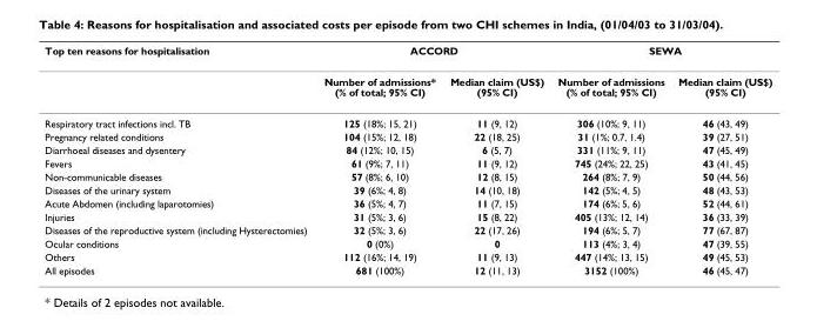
<table><thead><tr><td rowspan="2">Top ten reasons for hospitalisation</td><td colspan="2">ACCORD</td><td colspan="2">SEWA</td></tr><tr><td>Number of admissions* (% of total; 95% CI)</td><td>Median claim (US$) (95% CI)</td><td>Number of admissions (% of total; 95% CI)</td><td>Median claim (US$) (95% CI)</td></tr></thead><tbody><tr><td>Respiratory tract infections incl. TB</td><td>125 (18%; 15, 21)</td><td>11 (9, 12)</td><td>306 (10%; 9, 11)</td><td>46 (43, 49)</td></tr><tr><td>Pregnancy related conditions</td><td>104 (15%; 12, 18)</td><td>22 (18, 25)</td><td>31 (1%; 0.7, 1.4)</td><td>39 (27, 51)</td></tr><tr><td>Diarrhoeal diseases and dysentery</td><td>84 (12%; 10, 15)</td><td>6 (5, 7)</td><td>331 (11%; 9, 11)</td><td>47 (45, 49)</td></tr><tr><td>Fevers</td><td>61 (9%; 7, 11)</td><td>11 (9, 12)</td><td>745 (24%; 22, 25)</td><td>43 (41, 45)</td></tr><tr><td>Non-communicable diseases</td><td>57 (8%; 6, 10)</td><td>12 (8, 15)</td><td>264 (8%; 7, 9)</td><td>50 (44, 56)</td></tr><tr><td>Diseases of the urinary system</td><td>39 (6%; 4, 8)</td><td>14 (10, 18)</td><td>142 (5%; 4, 5)</td><td>48 (43, 53)</td></tr><tr><td>Acute Abdomen (including laparotomies)</td><td>36 (5%; 4, 7)</td><td>11 (7, 15)</td><td>174 (6%; 5, 6)</td><td>52 (44, 61)</td></tr><tr><td>Injuries</td><td>31 (5%; 3, 6)</td><td>15 (8, 22)</td><td>405 (13%; 12, 14)</td><td>36 (33, 39)</td></tr><tr><td>Diseases of the reproductive system (including Hysterectomies)</td><td>32 (5%; 3, 6)</td><td>22 (17, 26)</td><td>194 (6%; 5, 7)</td><td>77 (67, 87)</td></tr><tr><td>Ocular conditions</td><td>0 (0%)</td><td>0</td><td>113 (4%; 3, 4)</td><td>47 (39, 55)</td></tr><tr><td>Others</td><td>112 (16%; 14, 19)</td><td>11 (9, 13)</td><td>447 (14%; 13, 15)</td><td>49 (45, 53)</td></tr><tr><td>All episodes</td><td>681 (100%)</td><td>12 (11, 13)</td><td>3152 (100%)</td><td>46 (45, 47)</td></tr></tbody></table>